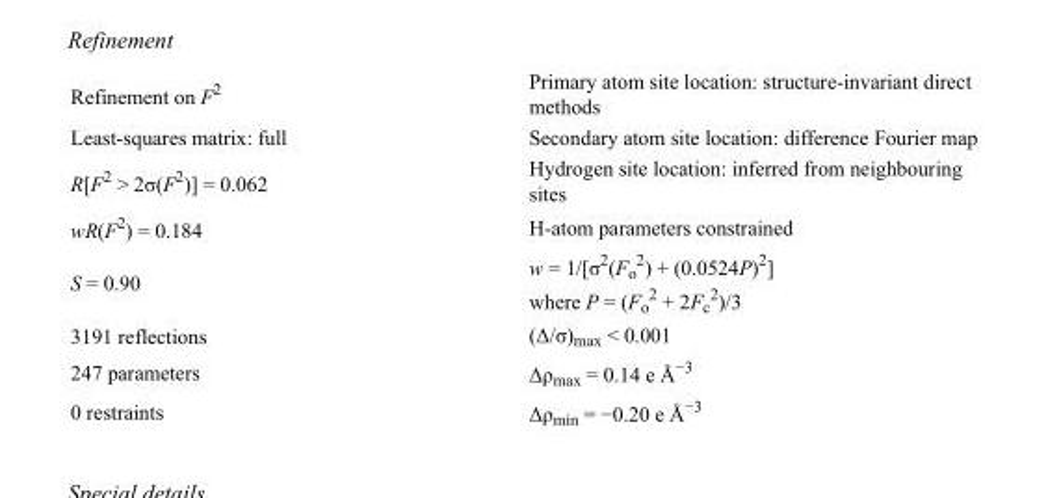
<table><tbody><tr><td>Refinement on F<sup>2</sup></td><td>Primary atom site location: structure-invariant direct methods</td></tr><tr><td>Least-squares matrix: full</td><td>Secondary atom site location: difference Fourier map</td></tr><tr><td>R[F<sup>2</sup> &gt; 2σ(F<sup>2</sup>)] = 0.062</td><td>Hydrogen site location: inferred from neighbouring sites</td></tr><tr><td>wR(F<sup>2</sup>) = 0.184</td><td>H-atom parameters constrained</td></tr><tr><td>S = 0.90</td><td>w = 1/[σ<sup>2</sup>(F<sub>o</sub> <sup>2</sup>) + (0.0524P)<sup>2</sup>] where P = (F<sub>o</sub> <sup>2</sup> + 2F<sub>c</sub> <sup>2</sup>)/3</td></tr><tr><td>3191 reflections</td><td>(Δ/σ)<sub>max</sub> &lt; 0.001</td></tr><tr><td>247 parameters</td><td>Δρ<sub>max</sub> = 0.14 e Å<sup>−3</sup></td></tr><tr><td>0 restraints</td><td>Δρ<sub>min</sub> = −0.20 e Å<sup>−3</sup></td></tr></tbody></table>